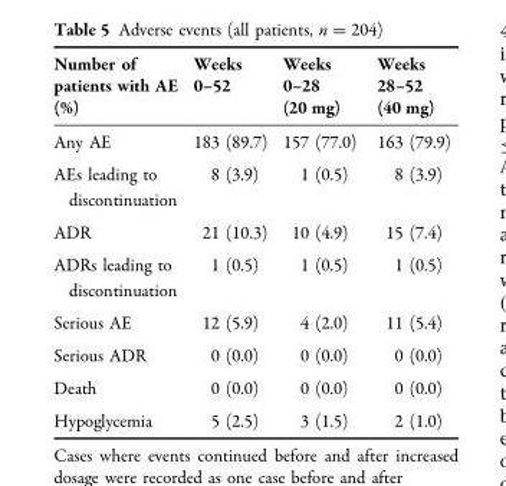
<table><thead><tr><td>Number of patients with AE (%)</td><td>Weeks 0–52</td><td>Weeks 0–28 (20 mg)</td><td>Weeks 28–52 (40 mg)</td></tr></thead><tbody><tr><td>Any AE</td><td>183 (89.7)</td><td>157 (77.0)</td><td>163 (79.9)</td></tr><tr><td>AEs leading to discontinuation</td><td>8 (3.9)</td><td>1 (0.5)</td><td>8 (3.9)</td></tr><tr><td>ADR</td><td>21 (10.3)</td><td>10 (4.9)</td><td>15 (7.4)</td></tr><tr><td>ADRs leading to discontinuation</td><td>1 (0.5)</td><td>1 (0.5)</td><td>1 (0.5)</td></tr><tr><td>Serious AE</td><td>12 (5.9)</td><td>4 (2.0)</td><td>11 (5.4)</td></tr><tr><td>Serious ADR</td><td>0 (0.0)</td><td>0 (0.0)</td><td>0 (0.0)</td></tr><tr><td>Death</td><td>0 (0.0)</td><td>0 (0.0)</td><td>0 (0.0)</td></tr><tr><td>Hypoglycemia</td><td>5 (2.5)</td><td>3 (1.5)</td><td>2 (1.0)</td></tr></tbody></table>